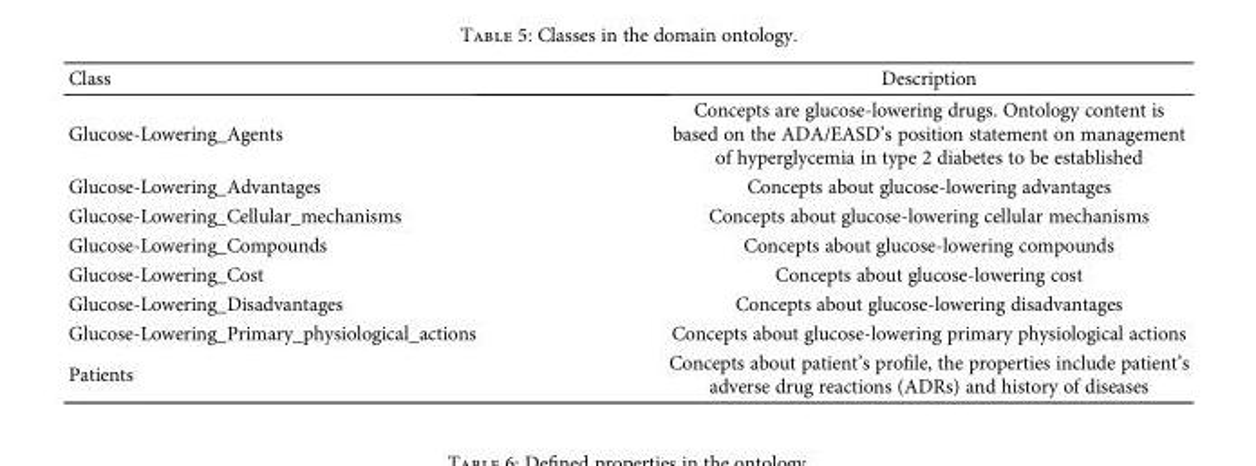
<table><thead><tr><td>Class</td><td>Description</td></tr></thead><tbody><tr><td>Glucose-Lowering_Agents</td><td>Concepts are glucose-lowering drugs. Ontology content is based on the ADA/EASD’s position statement on management of hyperglycemia in type 2 diabetes to be established</td></tr><tr><td>Glucose-Lowering_Advantages</td><td>Concepts about glucose-lowering advantages</td></tr><tr><td>Glucose-Lowering_Cellular_mechanisms</td><td>Concepts about glucose-lowering cellular mechanisms</td></tr><tr><td>Glucose-Lowering_Compounds</td><td>Concepts about glucose-lowering compounds</td></tr><tr><td>Glucose-Lowering_Cost</td><td>Concepts about glucose-lowering cost</td></tr><tr><td>Glucose-Lowering_Disadvantages</td><td>Concepts about glucose-lowering disadvantages</td></tr><tr><td>Glucose-Lowering_Primary_physiological_actions</td><td>Concepts about glucose-lowering primary physiological actions</td></tr><tr><td>Patients</td><td>Concepts about patient’s profile, the properties include patient’s adverse drug reactions (ADRs) and history of diseases</td></tr></tbody></table>